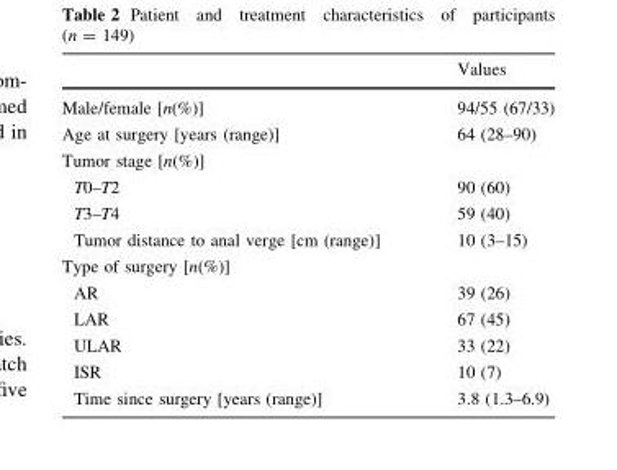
<table><thead><tr><td></td><td>Values</td></tr></thead><tbody><tr><td>Male/female [n(%)]</td><td>94/55 (67/33)</td></tr><tr><td>Age at surgery [years (range)]</td><td>64 (28–90)</td></tr><tr><td colspan="2">Tumor stage [n(%)]</td></tr><tr><td>T0–T2</td><td>90 (60)</td></tr><tr><td>T3–T4</td><td>59 (40)</td></tr><tr><td>Tumor distance to anal verge [cm (range)]</td><td>10 (3–15)</td></tr><tr><td colspan="2">Type of surgery [n(%)]</td></tr><tr><td>AR</td><td>39 (26)</td></tr><tr><td>LAR</td><td>67 (45)</td></tr><tr><td>ULAR</td><td>33 (22)</td></tr><tr><td>ISR</td><td>10 (7)</td></tr><tr><td>Time since surgery [years (range)]</td><td>3.8 (1.3–6.9)</td></tr></tbody></table>